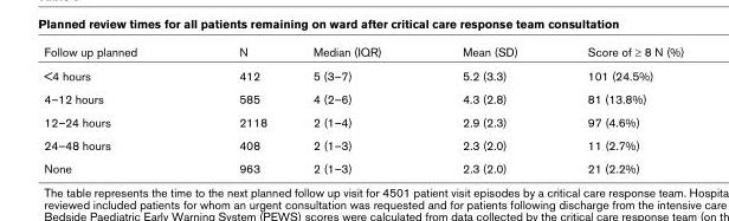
<table><thead><tr><td>Follow up planned</td><td>N</td><td>Median (IQR)</td><td>Mean (SD)</td><td>Score of ≥ 8 N (%)</td></tr></thead><tbody><tr><td>&lt;4 hours</td><td>412</td><td>5 (3–7)</td><td>5.2 (3.3)</td><td>101 (24.5%)</td></tr><tr><td>4–12 hours</td><td>585</td><td>4 (2–6)</td><td>4.3 (2.8)</td><td>81 (13.8%)</td></tr><tr><td>12–24 hours</td><td>2118</td><td>2 (1–4)</td><td>2.9 (2.3)</td><td>97 (4.6%)</td></tr><tr><td>24–48 hours</td><td>408</td><td>2 (1–3)</td><td>2.3 (2.0)</td><td>11 (2.7%)</td></tr><tr><td>None</td><td>963</td><td>2 (1–3)</td><td>2.3 (2.0)</td><td>21 (2.2%)</td></tr></tbody></table>